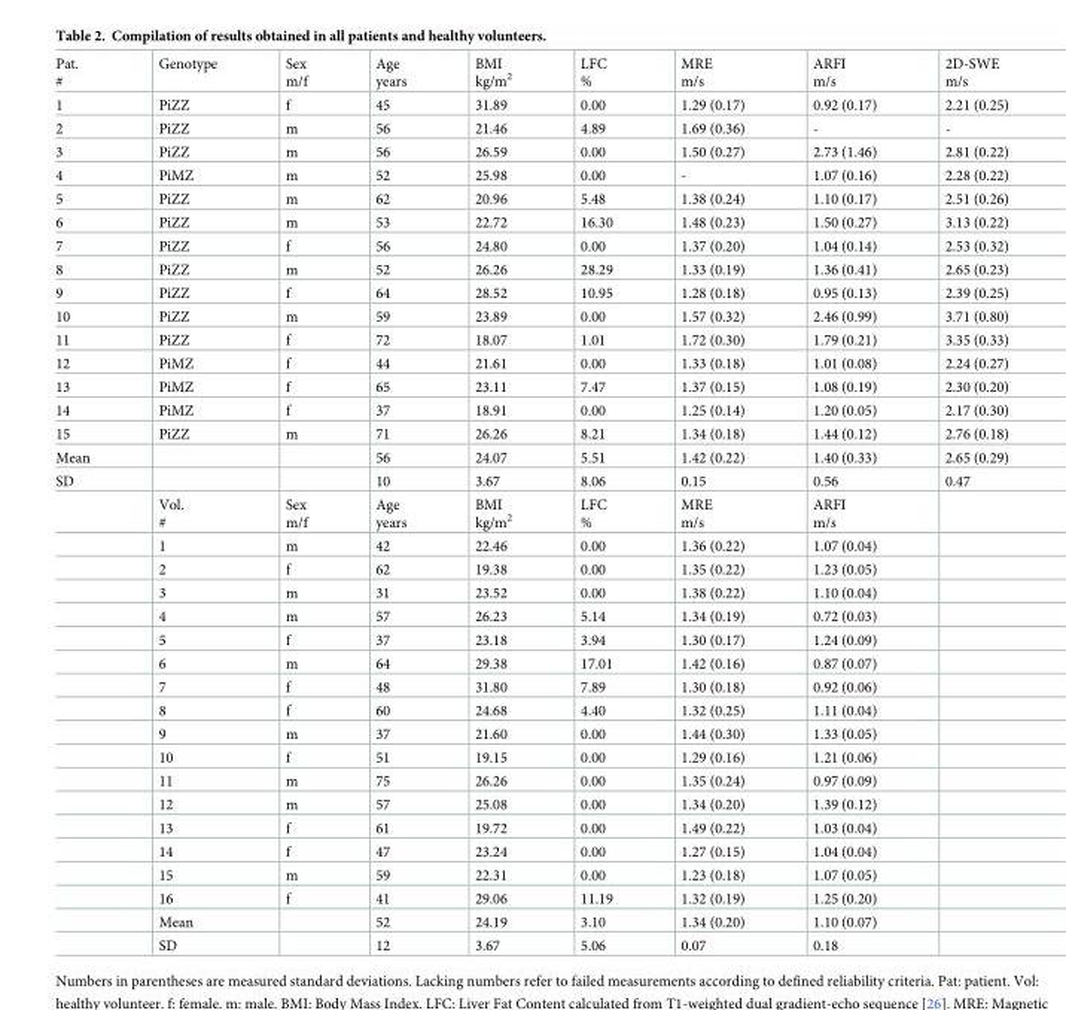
<table><tbody><tr><td>Pat. #</td><td>Genotype</td><td>Sex m/f</td><td>Age years</td><td>BMI kg/m<sup>2</sup></td><td>LFC %</td><td>MRE m/s</td><td>ARFI m/s</td><td>2D-SWE m/s</td></tr><tr><td>1</td><td>PiZZ</td><td>f</td><td>45</td><td>31.89</td><td>0.00</td><td>1.29 (0.17)</td><td>0.92 (0.17)</td><td>2.21 (0.25)</td></tr><tr><td>2</td><td>PiZZ</td><td>m</td><td>56</td><td>21.46</td><td>4.89</td><td>1.69 (0.36)</td><td>-</td><td>-</td></tr><tr><td>3</td><td>PiZZ</td><td>m</td><td>56</td><td>26.59</td><td>0.00</td><td>1.50 (0.27)</td><td>2.73 (1.46)</td><td>2.81 (0.22)</td></tr><tr><td>4</td><td>PiMZ</td><td>m</td><td>52</td><td>25.98</td><td>0.00</td><td>-</td><td>1.07 (0.16)</td><td>2.28 (0.22)</td></tr><tr><td>5</td><td>PiZZ</td><td>m</td><td>62</td><td>20.96</td><td>5.48</td><td>1.38 (0.24)</td><td>1.10 (0.17)</td><td>2.51 (0.26)</td></tr><tr><td>6</td><td>PiZZ</td><td>m</td><td>53</td><td>22.72</td><td>16.30</td><td>1.48 (0.23)</td><td>1.50 (0.27)</td><td>3.13 (0.22)</td></tr><tr><td>7</td><td>PiZZ</td><td>f</td><td>56</td><td>24.80</td><td>0.00</td><td>1.37 (0.20)</td><td>1.04 (0.14)</td><td>2.53 (0.32)</td></tr><tr><td>8</td><td>PiZZ</td><td>m</td><td>52</td><td>26.26</td><td>28.29</td><td>1.33 (0.19)</td><td>1.36 (0.41)</td><td>2.65 (0.23)</td></tr><tr><td>9</td><td>PiZZ</td><td>f</td><td>64</td><td>28.52</td><td>10.95</td><td>1.28 (0.18)</td><td>0.95 (0.13)</td><td>2.39 (0.25)</td></tr><tr><td>10</td><td>PiZZ</td><td>m</td><td>59</td><td>23.89</td><td>0.00</td><td>1.57 (0.32)</td><td>2.46 (0.99)</td><td>3.71 (0.80)</td></tr><tr><td>11</td><td>PiZZ</td><td>f</td><td>72</td><td>18.07</td><td>1.01</td><td>1.72 (0.30)</td><td>1.79 (0.21)</td><td>3.35 (0.33)</td></tr><tr><td>12</td><td>PiMZ</td><td>f</td><td>44</td><td>21.61</td><td>0.00</td><td>1.33 (0.18)</td><td>1.01 (0.08)</td><td>2.24 (0.27)</td></tr><tr><td>13</td><td>PiMZ</td><td>f</td><td>65</td><td>23.11</td><td>7.47</td><td>1.37 (0.15)</td><td>1.08 (0.19)</td><td>2.30 (0.20)</td></tr><tr><td>14</td><td>PiMZ</td><td>f</td><td>37</td><td>18.91</td><td>0.00</td><td>1.25 (0.14)</td><td>1.20 (0.05)</td><td>2.17 (0.30)</td></tr><tr><td>15</td><td>PiZZ</td><td>m</td><td>71</td><td>26.26</td><td>8.21</td><td>1.34 (0.18)</td><td>1.44 (0.12)</td><td>2.76 (0.18)</td></tr><tr><td>Mean</td><td></td><td></td><td>56</td><td>24.07</td><td>5.51</td><td>1.42 (0.22)</td><td>1.40 (0.33)</td><td>2.65 (0.29)</td></tr><tr><td rowspan="20">SD</td><td></td><td></td><td>10</td><td>3.67</td><td>8.06</td><td>0.15</td><td>0.56</td><td>0.47</td></tr><tr><td>Vol. #</td><td>Sex m/f</td><td>Age years</td><td>BMI kg/m<sup>2</sup></td><td>LFC %</td><td>MRE m/s</td><td>ARFI m/s</td><td></td></tr><tr><td>1</td><td>m</td><td>42</td><td>22.46</td><td>0.00</td><td>1.36 (0.22)</td><td>1.07 (0.04)</td><td></td></tr><tr><td>2</td><td>f</td><td>62</td><td>19.38</td><td>0.00</td><td>1.35 (0.22)</td><td>1.23 (0.05)</td><td></td></tr><tr><td>3</td><td>m</td><td>31</td><td>23.52</td><td>0.00</td><td>1.38 (0.22)</td><td>1.10 (0.04)</td><td></td></tr><tr><td>4</td><td>m</td><td>57</td><td>26.23</td><td>5.14</td><td>1.34 (0.19)</td><td>0.72 (0.03)</td><td></td></tr><tr><td>5</td><td>f</td><td>37</td><td>23.18</td><td>3.94</td><td>1.30 (0.17)</td><td>1.24 (0.09)</td><td></td></tr><tr><td>6</td><td>m</td><td>64</td><td>29.38</td><td>17.01</td><td>1.42 (0.16)</td><td>0.87 (0.07)</td><td></td></tr><tr><td>7</td><td>f</td><td>48</td><td>31.80</td><td>7.89</td><td>1.30 (0.18)</td><td>0.92 (0.06)</td><td></td></tr><tr><td>8</td><td>f</td><td>60</td><td>24.68</td><td>4.40</td><td>1.32 (0.25)</td><td>1.11 (0.04)</td><td></td></tr><tr><td>9</td><td>m</td><td>37</td><td>21.60</td><td>0.00</td><td>1.44 (0.30)</td><td>1.33 (0.05)</td><td></td></tr><tr><td>10</td><td>f</td><td>51</td><td>19.15</td><td>0.00</td><td>1.29 (0.16)</td><td>1.21 (0.06)</td><td></td></tr><tr><td>11</td><td>m</td><td>75</td><td>26.26</td><td>0.00</td><td>1.35 (0.24)</td><td>0.97 (0.09)</td><td></td></tr><tr><td>12</td><td>m</td><td>57</td><td>25.08</td><td>0.00</td><td>1.34 (0.20)</td><td>1.39 (0.12)</td><td></td></tr><tr><td>13</td><td>f</td><td>61</td><td>19.72</td><td>0.00</td><td>1.49 (0.22)</td><td>1.03 (0.04)</td><td></td></tr><tr><td>14</td><td>f</td><td>47</td><td>23.24</td><td>0.00</td><td>1.27 (0.15)</td><td>1.04 (0.04)</td><td></td></tr><tr><td>15</td><td>m</td><td>59</td><td>22.31</td><td>0.00</td><td>1.23 (0.18)</td><td>1.07 (0.05)</td><td></td></tr><tr><td>16</td><td>f</td><td>41</td><td>29.06</td><td>11.19</td><td>1.32 (0.19)</td><td>1.25 (0.20)</td><td></td></tr><tr><td>Mean</td><td></td><td>52</td><td>24.19</td><td>3.10</td><td>1.34 (0.20)</td><td>1.10 (0.07)</td><td></td></tr><tr><td>SD</td><td></td><td>12</td><td>3.67</td><td>5.06</td><td>0.07</td><td>0.18</td><td></td></tr></tbody></table>